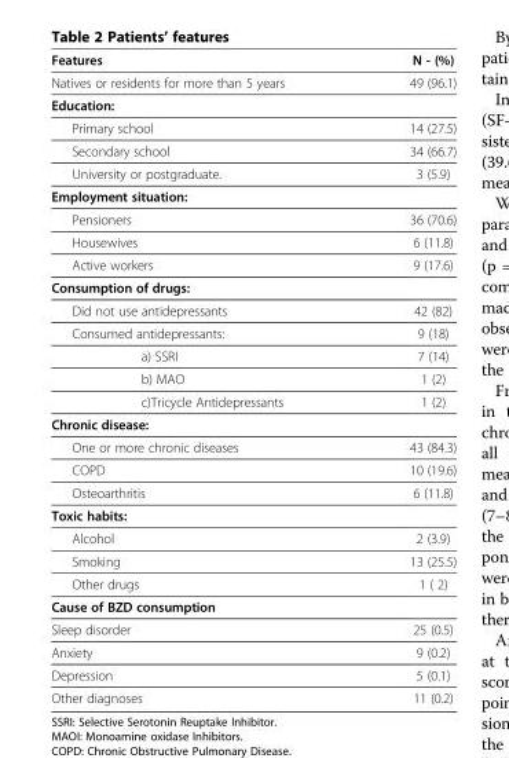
<table><thead><tr><td>Features</td><td>N - (%)</td></tr></thead><tbody><tr><td>Natives or residents for more than 5 years</td><td>49 (96.1)</td></tr><tr><td colspan="2">Education:</td></tr><tr><td>Primary school</td><td>14 (27.5)</td></tr><tr><td>Secondary school</td><td>34 (66.7)</td></tr><tr><td>University or postgraduate.</td><td>3 (5.9)</td></tr><tr><td colspan="2">Employment situation:</td></tr><tr><td>Pensioners</td><td>36 (70.6)</td></tr><tr><td>Housewives</td><td>6 (11.8)</td></tr><tr><td>Active workers</td><td>9 (17.6)</td></tr><tr><td colspan="2">Consumption of drugs:</td></tr><tr><td>Did not use antidepressants</td><td>42 (82)</td></tr><tr><td>Consumed antidepressants:</td><td>9 (18)</td></tr><tr><td>a) SSRI</td><td>7 (14)</td></tr><tr><td>b) MAO</td><td>1 (2)</td></tr><tr><td>c)Tricycle Antidepressants</td><td>1 (2)</td></tr><tr><td colspan="2">Chronic disease:</td></tr><tr><td>One or more chronic diseases</td><td>43 (84.3)</td></tr><tr><td>COPD</td><td>10 (19.6)</td></tr><tr><td>Osteoarthritis</td><td>6 (11.8)</td></tr><tr><td colspan="2">Toxic habits:</td></tr><tr><td>Alcohol</td><td>2 (3.9)</td></tr><tr><td>Smoking</td><td>13 (25.5)</td></tr><tr><td>Other drugs</td><td>1 ( 2)</td></tr><tr><td colspan="2">Cause of BZD consumption</td></tr><tr><td>Sleep disorder</td><td>25 (0.5)</td></tr><tr><td>Anxiety</td><td>9 (0.2)</td></tr><tr><td>Depression</td><td>5 (0.1)</td></tr><tr><td>Other diagnoses</td><td>11 (0.2)</td></tr></tbody></table>